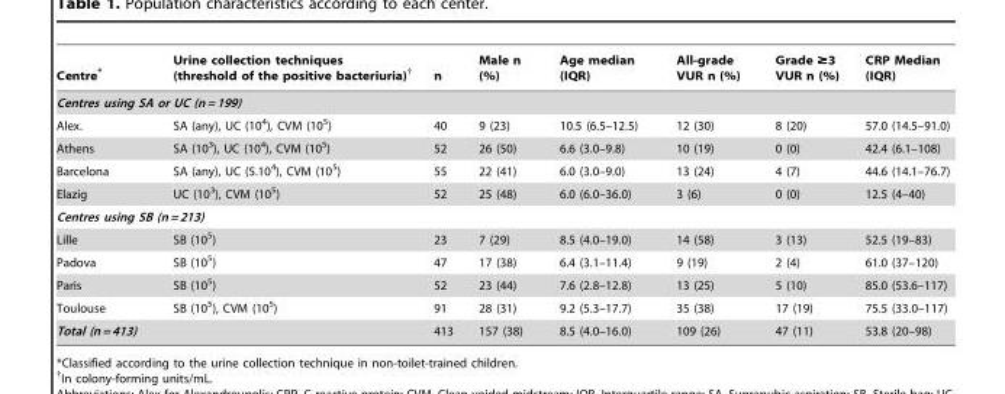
<table><thead><tr><td>Centre*</td><td>Urine collection techniques (threshold of the positive bacteriuria)†</td><td>n</td><td>Male n (%)</td><td>Age median (IQR)</td><td>All-grade VUR n (%)</td><td>Grade ≥3 VUR n (%)</td><td>CRP Median (IQR)</td></tr></thead><tbody><tr><td colspan="8">Centres using SA or UC (n = 199)</td></tr><tr><td>Alex.</td><td>SA (any), UC (10<sup>4</sup>), CVM (10<sup>5</sup>)</td><td>40</td><td>9 (23)</td><td>10.5 (6.5–12.5)</td><td>12 (30)</td><td>8 (20)</td><td>57.0 (14.5–91.0)</td></tr><tr><td>Athens</td><td>SA (10<sup>3</sup>), UC (10<sup>4</sup>), CVM (10<sup>5</sup>)</td><td>52</td><td>26 (50)</td><td>6.6 (3.0–9.8)</td><td>10 (19)</td><td>0 (0)</td><td>42.4 (6.1–108)</td></tr><tr><td>Barcelona</td><td>SA (any), UC (5.10<sup>4</sup>), CVM (10<sup>5</sup>)</td><td>55</td><td>22 (41)</td><td>6.0 (3.0–9.0)</td><td>13 (24)</td><td>4 (7)</td><td>44.6 (14.1–76.7)</td></tr><tr><td>Elazig</td><td>UC (10<sup>3</sup>), CVM (10<sup>5</sup>)</td><td>52</td><td>25 (48)</td><td>6.0 (6.0–36.0)</td><td>3 (6)</td><td>0 (0)</td><td>12.5 (4–40)</td></tr><tr><td colspan="8">Centres using SB (n = 213)</td></tr><tr><td>Lille</td><td>SB (10<sup>5</sup>)</td><td>23</td><td>7 (29)</td><td>8.5 (4.0–19.0)</td><td>14 (58)</td><td>3 (13)</td><td>52.5 (19–83)</td></tr><tr><td>Padova</td><td>SB (10<sup>5</sup>)</td><td>47</td><td>17 (38)</td><td>6.4 (3.1–11.4)</td><td>9 (19)</td><td>2 (4)</td><td>61.0 (37–120)</td></tr><tr><td>Paris</td><td>SB (10<sup>5</sup>)</td><td>52</td><td>23 (44)</td><td>7.6 (2.8–12.8)</td><td>13 (25)</td><td>5 (10)</td><td>85.0 (53.6–117)</td></tr><tr><td>Toulouse</td><td>SB (10<sup>5</sup>), CVM (10<sup>5</sup>)</td><td>91</td><td>28 (31)</td><td>9.2 (5.3–17.7)</td><td>35 (38)</td><td>17 (19)</td><td>75.5 (33.0–117)</td></tr><tr><td colspan="2">Total (n = 413)</td><td>413</td><td>157 (38)</td><td>8.5 (4.0–16.0)</td><td>109 (26)</td><td>47 (11)</td><td>53.8 (20–98)</td></tr></tbody></table>